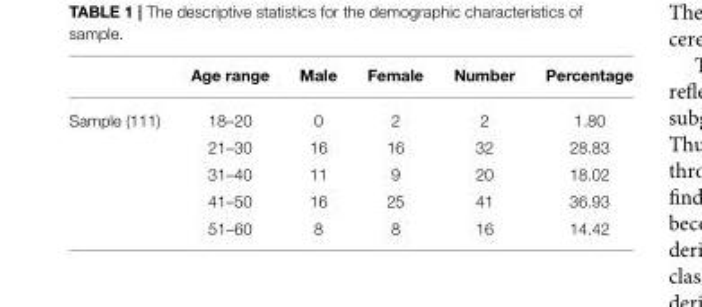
<table><thead><tr><td></td><td>Age range</td><td>Male</td><td>Female</td><td>Number</td><td>Percentage</td></tr></thead><tbody><tr><td rowspan="5">Sample (111)</td><td>18–20</td><td>0</td><td>2</td><td>2</td><td>1.80</td></tr><tr><td>21–30</td><td>16</td><td>16</td><td>32</td><td>28.83</td></tr><tr><td>31–40</td><td>11</td><td>9</td><td>20</td><td>18.02</td></tr><tr><td>41–50</td><td>16</td><td>25</td><td>41</td><td>36.93</td></tr><tr><td>51–60</td><td>8</td><td>8</td><td>16</td><td>14.42</td></tr></tbody></table>